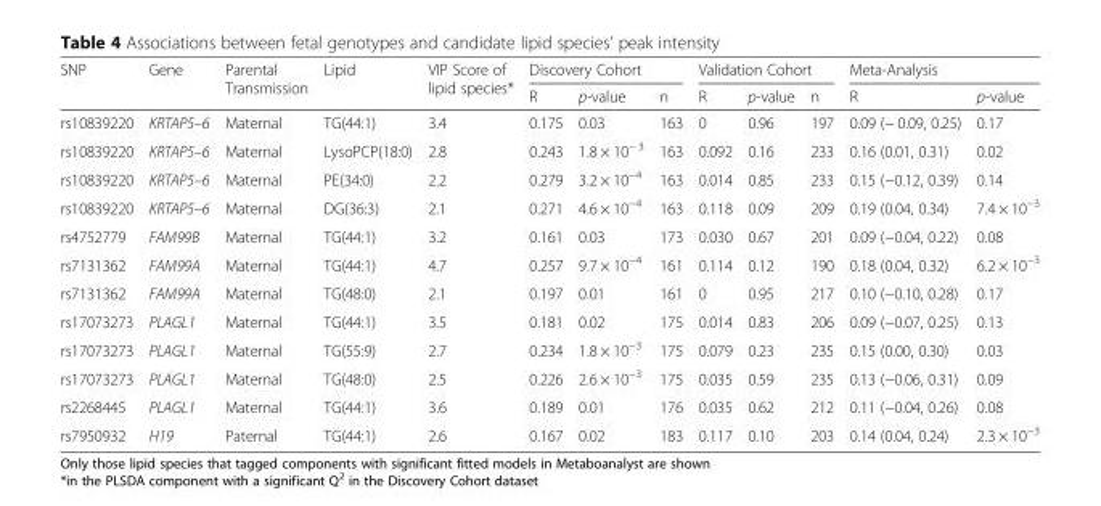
<table><thead><tr><td rowspan="2">SNP</td><td rowspan="2">Gene</td><td rowspan="2">Parental Transmission</td><td rowspan="2">Lipid</td><td rowspan="2">VIP Score of lipid species*</td><td colspan="3">Discovery Cohort</td><td colspan="3">Validation Cohort</td><td colspan="2">Meta-Analysis</td></tr><tr><td>R</td><td>p-value</td><td>n</td><td>R</td><td>p-value</td><td>n</td><td>R</td><td>p-value</td></tr></thead><tbody><tr><td>rs10839220</td><td>KRTAP5–6</td><td>Maternal</td><td>TG(44:1)</td><td>3.4</td><td>0.175</td><td>0.03</td><td>163</td><td>0</td><td>0.96</td><td>197</td><td>0.09 (− 0.09, 0.25)</td><td>0.17</td></tr><tr><td>rs10839220</td><td>KRTAP5–6</td><td>Maternal</td><td>LysoPCP(18:0)</td><td>2.8</td><td>0.243</td><td>1.8 × 10<sup>− 3</sup></td><td>163</td><td>0.092</td><td>0.16</td><td>233</td><td>0.16 (0.01, 0.31)</td><td>0.02</td></tr><tr><td>rs10839220</td><td>KRTAP5–6</td><td>Maternal</td><td>PE(34:0)</td><td>2.2</td><td>0.279</td><td>3.2 × 10<sup>−4</sup></td><td>163</td><td>0.014</td><td>0.85</td><td>233</td><td>0.15 (−0.12, 0.39)</td><td>0.14</td></tr><tr><td>rs10839220</td><td>KRTAP5–6</td><td>Maternal</td><td>DG(36:3)</td><td>2.1</td><td>0.271</td><td>4.6 × 10<sup>−4</sup></td><td>163</td><td>0.118</td><td>0.09</td><td>209</td><td>0.19 (0.04, 0.34)</td><td>7.4 × 10<sup>−3</sup></td></tr><tr><td>rs4752779</td><td>FAM99B</td><td>Maternal</td><td>TG(44:1)</td><td>3.2</td><td>0.161</td><td>0.03</td><td>173</td><td>0.030</td><td>0.67</td><td>201</td><td>0.09 (−0.04, 0.22)</td><td>0.08</td></tr><tr><td>rs7131362</td><td>FAM99A</td><td>Maternal</td><td>TG(44:1)</td><td>4.7</td><td>0.257</td><td>9.7 × 10<sup>−4</sup></td><td>161</td><td>0.114</td><td>0.12</td><td>190</td><td>0.18 (0.04, 0.32)</td><td>6.2 × 10<sup>−3</sup></td></tr><tr><td>rs7131362</td><td>FAM99A</td><td>Maternal</td><td>TG(48:0)</td><td>2.1</td><td>0.197</td><td>0.01</td><td>161</td><td>0</td><td>0.95</td><td>217</td><td>0.10 (−0.10, 0.28)</td><td>0.17</td></tr><tr><td>rs17073273</td><td>PLAGL1</td><td>Maternal</td><td>TG(44:1)</td><td>3.5</td><td>0.181</td><td>0.02</td><td>175</td><td>0.014</td><td>0.83</td><td>206</td><td>0.09 (−0.07, 0.25)</td><td>0.13</td></tr><tr><td>rs17073273</td><td>PLAGL1</td><td>Maternal</td><td>TG(55:9)</td><td>2.7</td><td>0.234</td><td>1.8 × 10<sup>−3</sup></td><td>175</td><td>0.079</td><td>0.23</td><td>235</td><td>0.15 (0.00, 0.30)</td><td>0.03</td></tr><tr><td>rs17073273</td><td>PLAGL1</td><td>Maternal</td><td>TG(48:0)</td><td>2.5</td><td>0.226</td><td>2.6 × 10<sup>−3</sup></td><td>175</td><td>0.035</td><td>0.59</td><td>235</td><td>0.13 (−0.06, 0.31)</td><td>0.09</td></tr><tr><td>rs2268445</td><td>PLAGL1</td><td>Maternal</td><td>TG(44:1)</td><td>3.6</td><td>0.189</td><td>0.01</td><td>176</td><td>0.035</td><td>0.62</td><td>212</td><td>0.11 (−0.04, 0.26)</td><td>0.08</td></tr><tr><td>rs7950932</td><td>H19</td><td>Paternal</td><td>TG(44:1)</td><td>2.6</td><td>0.167</td><td>0.02</td><td>183</td><td>0.117</td><td>0.10</td><td>203</td><td>0.14 (0.04, 0.24)</td><td>2.3 × 10<sup>−3</sup></td></tr></tbody></table>